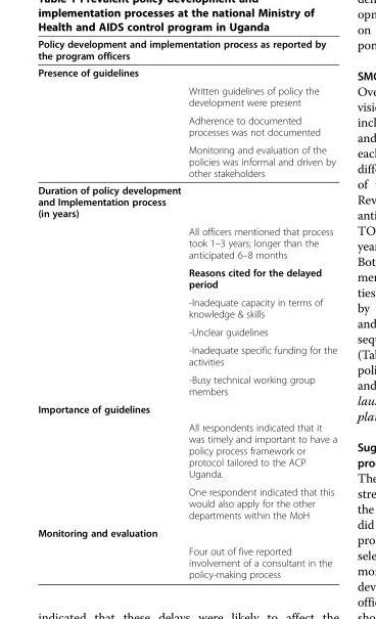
<table><thead><tr><td colspan="2">Policy development and implementation process as reported by the program officers</td></tr><tr><td>Presence of guidelines</td><td></td></tr></thead><tbody><tr><td></td><td>Written guidelines of policy the development were present</td></tr><tr><td></td><td>Adherence to documented processes was not documented</td></tr><tr><td></td><td>Monitoring and evaluation of the policies was informal and driven by other stakeholders</td></tr><tr><td colspan="2">Duration of policy development and Implementation process (in years)</td></tr><tr><td></td><td>All officers mentioned that process took 1–3 years; longer than the anticipated 6–8 months</td></tr><tr><td rowspan="5"></td><td>Reasons cited for the delayed period</td></tr><tr><td>-Inadequate capacity in terms of knowledge &amp; skills</td></tr><tr><td>-Unclear guidelines</td></tr><tr><td>-Inadequate specific funding for the activities</td></tr><tr><td>-Busy technical working group members</td></tr><tr><td colspan="2">Importance of guidelines</td></tr><tr><td rowspan="2"></td><td>All respondents indicated that it was timely and important to have a policy process framework or protocol tailored to the ACP Uganda.</td></tr><tr><td>One respondent indicated that this would also apply for the other departments within the MoH</td></tr><tr><td colspan="2">Monitoring and evaluation</td></tr><tr><td></td><td>Four out of five reported involvement of a consultant in the policy-making process</td></tr></tbody></table>